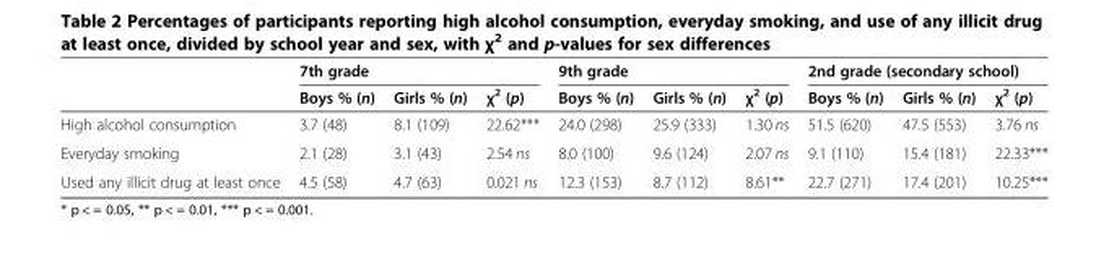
<table><thead><tr><td rowspan="2"></td><td rowspan="2">7th grade Boys % (n)</td><td rowspan="2">Girls % (n)</td><td rowspan="2">χ<sup>2</sup> (p)</td><td rowspan="2">9th grade Boys % (n)</td><td rowspan="2">Girls % (n)</td><td rowspan="2">χ<sup>2</sup> (p)</td><td colspan="3">2nd grade (secondary school)</td></tr><tr><td>Boys % (n)</td><td>Girls % (n)</td><td>χ<sup>2</sup> (p)</td></tr></thead><tbody><tr><td>High alcohol consumption</td><td>3.7 (48)</td><td>8.1 (109)</td><td>22.62***</td><td>24.0 (298)</td><td>25.9 (333)</td><td>1.30 ns</td><td>51.5 (620)</td><td>47.5 (553)</td><td>3.76 ns</td></tr><tr><td>Everyday smoking</td><td>2.1 (28)</td><td>3.1 (43)</td><td>2.54 ns</td><td>8.0 (100)</td><td>9.6 (124)</td><td>2.07 ns</td><td>9.1 (110)</td><td>15.4 (181)</td><td>22.33***</td></tr><tr><td>Used any illicit drug at least once</td><td>4.5 (58)</td><td>4.7 (63)</td><td>0.021 ns</td><td>12.3 (153)</td><td>8.7 (112)</td><td>8.61**</td><td>22.7 (271)</td><td>17.4 (201)</td><td>10.25***</td></tr></tbody></table>